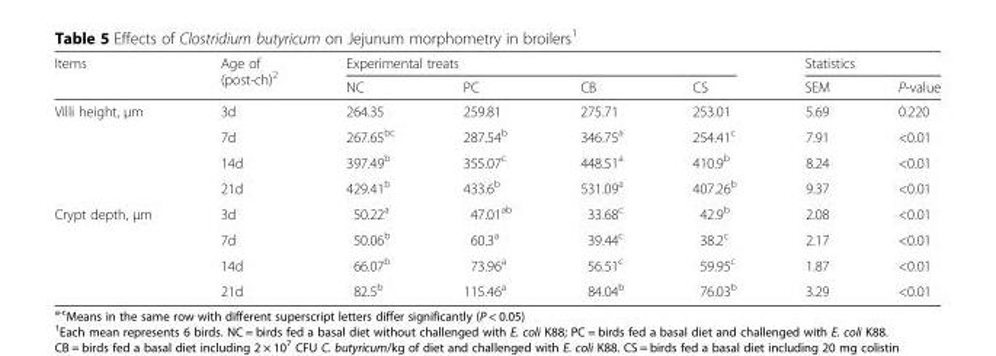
<table><thead><tr><td rowspan="2">Items</td><td rowspan="2">Age of (post-ch)<sup>2</sup></td><td colspan="4">Experimental treats</td><td colspan="2">Statistics</td></tr><tr><td>NC</td><td>PC</td><td>CB</td><td>CS</td><td>SEM</td><td>P-value</td></tr></thead><tbody><tr><td rowspan="4">Villi height, μm</td><td>3d</td><td>264.35</td><td>259.81</td><td>275.71</td><td>253.01</td><td>5.69</td><td>0.220</td></tr><tr><td>7d</td><td>267.65<sup>bc</sup></td><td>287.54<sup>b</sup></td><td>346.75<sup>a</sup></td><td>254.41<sup>c</sup></td><td>7.91</td><td>&lt;0.01</td></tr><tr><td>14d</td><td>397.49<sup>b</sup></td><td>355.07<sup>c</sup></td><td>448.51<sup>a</sup></td><td>410.9<sup>b</sup></td><td>8.24</td><td>&lt;0.01</td></tr><tr><td>21d</td><td>429.41<sup>b</sup></td><td>433.6<sup>b</sup></td><td>531.09<sup>a</sup></td><td>407.26<sup>b</sup></td><td>9.37</td><td>&lt;0.01</td></tr><tr><td rowspan="4">Crypt depth, μm</td><td>3d</td><td>50.22<sup>a</sup></td><td>47.01<sup>ab</sup></td><td>33.68<sup>c</sup></td><td>42.9<sup>b</sup></td><td>2.08</td><td>&lt;0.01</td></tr><tr><td>7d</td><td>50.06<sup>b</sup></td><td>60.3<sup>a</sup></td><td>39.44<sup>c</sup></td><td>38.2<sup>c</sup></td><td>2.17</td><td>&lt;0.01</td></tr><tr><td>14d</td><td>66.07<sup>b</sup></td><td>73.96<sup>a</sup></td><td>56.51<sup>c</sup></td><td>59.95<sup>c</sup></td><td>1.87</td><td>&lt;0.01</td></tr><tr><td>21d</td><td>82.5<sup>b</sup></td><td>115.46<sup>a</sup></td><td>84.04<sup>b</sup></td><td>76.03<sup>b</sup></td><td>3.29</td><td>&lt;0.01</td></tr></tbody></table>